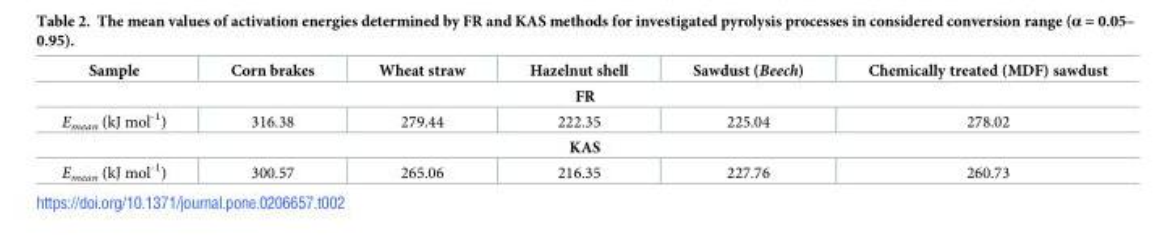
<table><thead><tr><td>Sample</td><td>Corn brakes</td><td>Wheat straw</td><td>Hazelnut shell</td><td>Sawdust (Beech)</td><td>Chemically treated (MDF) sawdust</td></tr></thead><tbody><tr><td colspan="6">FR</td></tr><tr><td>E<sub>mean</sub> (kJ mol<sup>-1</sup>)</td><td>316.38</td><td>279.44</td><td>222.35</td><td>225.04</td><td>278.02</td></tr><tr><td colspan="6">KAS</td></tr><tr><td>E<sub>mean</sub> (kJ mol<sup>-1</sup>)</td><td>300.57</td><td>265.06</td><td>216.35</td><td>227.76</td><td>260.73</td></tr></tbody></table>